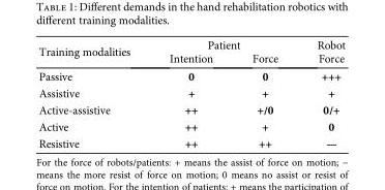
<table><thead><tr><td rowspan="2">Training modalities</td><td colspan="2">Patient</td><td rowspan="2">Robot Force</td></tr><tr><td>Intention</td><td>Force</td></tr></thead><tbody><tr><td>Passive</td><td>0</td><td>0</td><td>+++</td></tr><tr><td>Assistive</td><td>+</td><td>+</td><td>+</td></tr><tr><td>Active-assistive</td><td>++</td><td>+/0</td><td>0/+</td></tr><tr><td>Active</td><td>++</td><td>+</td><td>0</td></tr><tr><td>Resistive</td><td>++</td><td>++</td><td>—</td></tr></tbody></table>